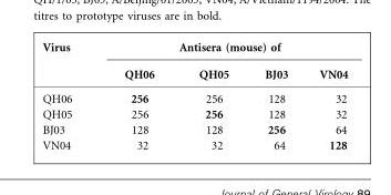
<table><thead><tr><td rowspan="2">Virus</td><td colspan="4">Antisera (mouse) of</td></tr><tr><td>QH06</td><td>QH05</td><td>BJ03</td><td>VN04</td></tr></thead><tbody><tr><td>QH06</td><td>256</td><td>256</td><td>128</td><td>32</td></tr><tr><td>QH05</td><td>256</td><td>256</td><td>128</td><td>32</td></tr><tr><td>BJ03</td><td>128</td><td>128</td><td>256</td><td>64</td></tr><tr><td>VN04</td><td>32</td><td>32</td><td>64</td><td>128</td></tr></tbody></table>